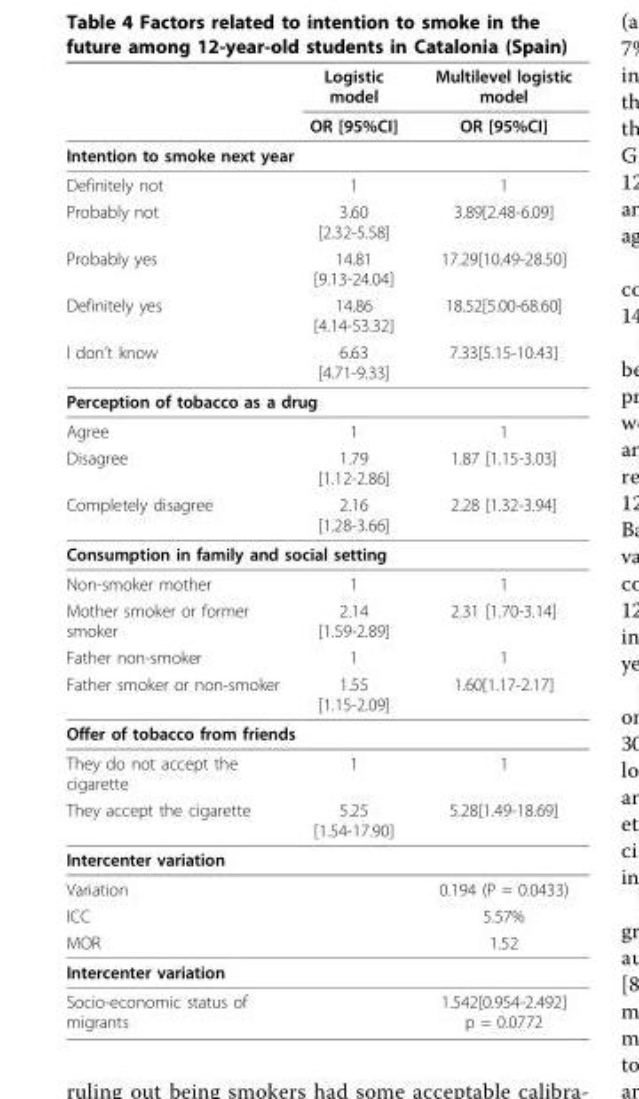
<table><thead><tr><td rowspan="2"></td><td rowspan="2">Logistic model OR [95%CI]</td><td rowspan="2">Multilevel logistic model OR [95%CI]</td></tr><tr></tr></thead><tbody><tr><td colspan="3">Intention to smoke next year</td></tr><tr><td>Definitely not</td><td>1</td><td>1</td></tr><tr><td>Probably not</td><td>3.60 [2.32-5.58]</td><td>3.89[2.48-6.09]</td></tr><tr><td>Probably yes</td><td>14.81 [9.13-24.04]</td><td>17.29[10.49-28.50]</td></tr><tr><td>Definitely yes</td><td>14.86 [4.14-53.32]</td><td>18.52[5.00-68.60]</td></tr><tr><td>I don’t know</td><td>6.63 [4.71-9.33]</td><td>7.33[5.15-10.43]</td></tr><tr><td colspan="3">Perception of tobacco as a drug</td></tr><tr><td>Agree</td><td>1</td><td>1</td></tr><tr><td>Disagree</td><td>1.79 [1.12-2.86]</td><td>1.87 [1.15-3.03]</td></tr><tr><td>Completely disagree</td><td>2.16 [1.28-3.66]</td><td>2.28 [1.32-3.94]</td></tr><tr><td colspan="3">Consumption in family and social setting</td></tr><tr><td>Non-smoker mother</td><td>1</td><td>1</td></tr><tr><td>Mother smoker or former smoker</td><td>2.14 [1.59-2.89]</td><td>2.31 [1.70-3.14]</td></tr><tr><td>Father non-smoker</td><td>1</td><td>1</td></tr><tr><td>Father smoker or non-smoker</td><td>1.55 [1.15-2.09]</td><td>1.60[1.17-2.17]</td></tr><tr><td colspan="3">Offer of tobacco from friends</td></tr><tr><td>They do not accept the cigarette</td><td>1</td><td>1</td></tr><tr><td>They accept the cigarette</td><td>5.25 [1.54-17.90]</td><td>5.28[1.49-18.69]</td></tr><tr><td colspan="3">Intercenter variation</td></tr><tr><td>Variation</td><td></td><td>0.194 (P = 0.0433)</td></tr><tr><td>ICC</td><td></td><td>5.57%</td></tr><tr><td>MOR</td><td></td><td>1.52</td></tr><tr><td colspan="3">Intercenter variation</td></tr><tr><td>Socio-economic status of migrants</td><td></td><td>1.542[0.954-2.492] p = 0.0772</td></tr></tbody></table>